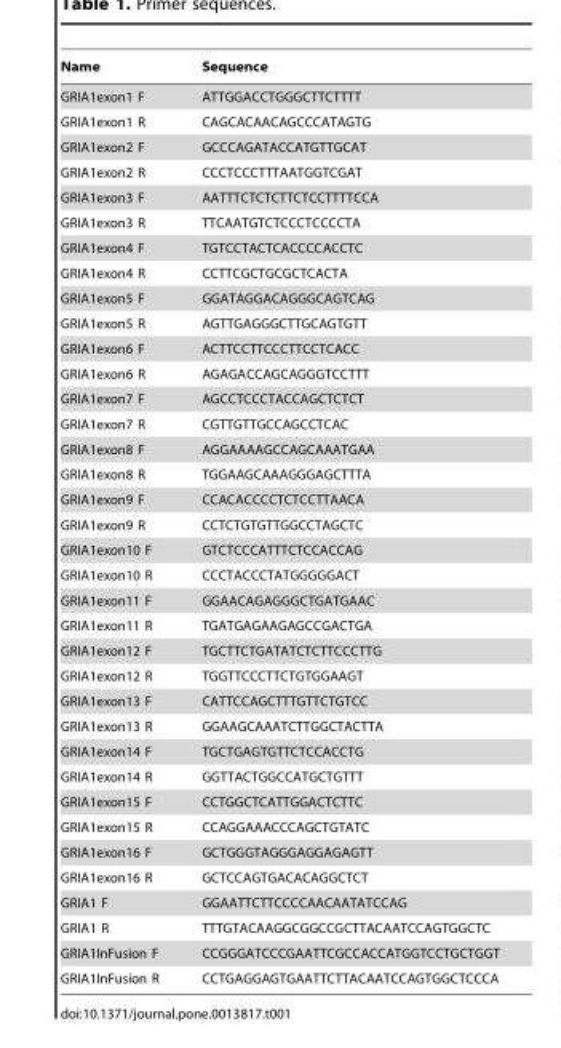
<table><thead><tr><td>Name</td><td>Sequence</td></tr></thead><tbody><tr><td>GRIA1exon1 F</td><td>ATTGGACCTGGGCTTCTTTT</td></tr><tr><td>GRIA1exon1 R</td><td>CAGCACAACAGCCCATAGTG</td></tr><tr><td>GRIA1exon2 F</td><td>GCCCAGATACCATGTTGCAT</td></tr><tr><td>GRIA1exon2 R</td><td>CCCTCCCTTTAATGGTCGAT</td></tr><tr><td>GRIA1exon3 F</td><td>AATTTCTCTCTTCTCCTTTTCCA</td></tr><tr><td>GRIA1exon3 R</td><td>TTCAATGTCTCCCTCCCCTA</td></tr><tr><td>GRIA1exon4 F</td><td>TGTCCTACTCACCCCACCTC</td></tr><tr><td>GRIA1exon4 R</td><td>CCTTCGCTGCGCTCACTA</td></tr><tr><td>GRIA1exon5 F</td><td>GGATAGGACAGGGCAGTCAG</td></tr><tr><td>GRIA1exon5 R</td><td>AGTTGAGGGCTTGCAGTGTT</td></tr><tr><td>GRIA1exon6 F</td><td>ACTTCCTTCCCTTCCTCACC</td></tr><tr><td>GRIA1exon6 R</td><td>AGAGACCAGCAGGGTCCTTT</td></tr><tr><td>GRIA1exon7 F</td><td>AGCCTCCCTACCAGCTCTCT</td></tr><tr><td>GRIA1exon7 R</td><td>CGTTGTTGCCAGCCTCAC</td></tr><tr><td>GRIA1exon8 F</td><td>AGGAAAAGCCAGCAAATGAA</td></tr><tr><td>GRIA1exon8 R</td><td>TGGAAGCAAAGGGAGCTTTA</td></tr><tr><td>GRIA1exon9 F</td><td>CCACACCCCTCTCCTTAACA</td></tr><tr><td>GRIA1exon9 R</td><td>CCTCTGTGTTGGCCTAGCTC</td></tr><tr><td>GRIA1exon10 F</td><td>GTCTCCCATTTCTCCACCAG</td></tr><tr><td>GRIA1exon10 R</td><td>CCCTACCCTATGGGGGACT</td></tr><tr><td>GRIA1exon11 F</td><td>GGAACAGAGGGCTGATGAAC</td></tr><tr><td>GRIA1exon11 R</td><td>TGATGAGAAGAGCCGACTGA</td></tr><tr><td>GRIA1exon12 F</td><td>TGCTTCTGATATCTCTTCCCTTG</td></tr><tr><td>GRIA1exon12 R</td><td>TGGTTCCCTTCTGTGGAAGT</td></tr><tr><td>GRIA1exon13 F</td><td>CATTCCAGCTTTGTTCTGTCC</td></tr><tr><td>GRIA1exon13 R</td><td>GGAAGCAAATCTTGGCTACTTA</td></tr><tr><td>GRIA1exon14 F</td><td>TGCTGAGTGTTCTCCACCTG</td></tr><tr><td>GRIA1exon14 R</td><td>GGTTACTGGCCATGCTGTTT</td></tr><tr><td>GRIA1exon15 F</td><td>CCTGGCTCATTGGACTCTTC</td></tr><tr><td>GRIA1exon15 R</td><td>CCAGGAAACCCAGCTGTATC</td></tr><tr><td>GRIA1exon16 F</td><td>GCTGGGTAGGGAGGAGAGTT</td></tr><tr><td>GRIA1exon16 R</td><td>GCTCCAGTGACACAGGCTCT</td></tr><tr><td>GRIA1 F</td><td>GGAATTCTTCCCCAACAATATCCAG</td></tr><tr><td>GRIA1 R</td><td>TTTGTACAAGGCGGCCGCTTACAATCCAGTGGCTC</td></tr><tr><td>GRIA1InFusion F</td><td>CCGGGATCCCGAATTCGCCACCATGGTCCTGCTGGT</td></tr><tr><td>GRIA1InFusion R</td><td>CCTGAGGAGTGAATTCTTACAATCCAGTGGCTCCCA</td></tr></tbody></table>